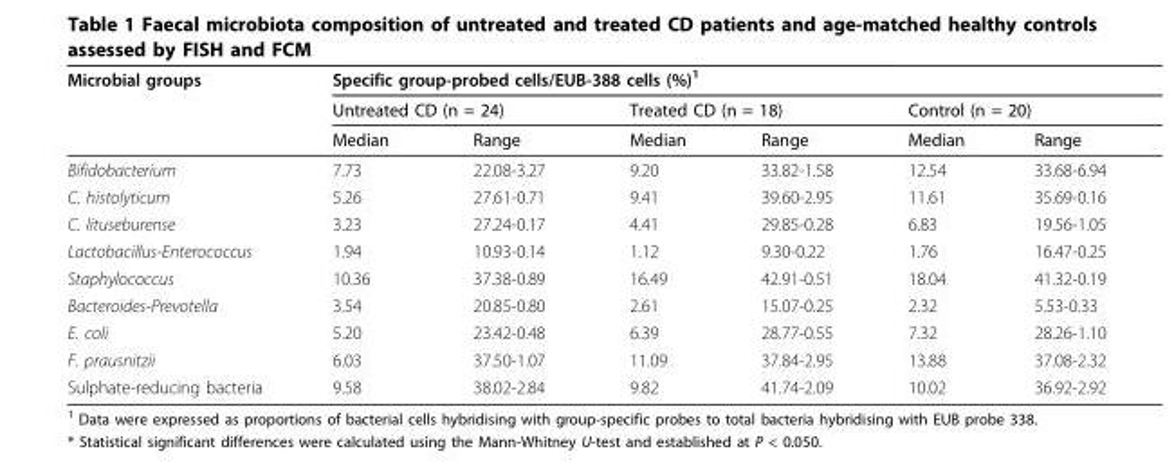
<table><thead><tr><td rowspan="3">Microbial groups</td><td colspan="6">Specific group-probed cells/EUB-388 cells (%)<sup>1</sup></td></tr><tr><td colspan="2">Untreated CD (n = 24)</td><td colspan="2">Treated CD (n = 18)</td><td colspan="2">Control (n = 20)</td></tr><tr><td>Median</td><td>Range</td><td>Median</td><td>Range</td><td>Median</td><td>Range</td></tr></thead><tbody><tr><td>Bifidobacterium</td><td>7.73</td><td>22.08-3.27</td><td>9.20</td><td>33.82-1.58</td><td>12.54</td><td>33.68-6.94</td></tr><tr><td>C. histolyticum</td><td>5.26</td><td>27.61-0.71</td><td>9.41</td><td>39.60-2.95</td><td>11.61</td><td>35.69-0.16</td></tr><tr><td>C. lituseburense</td><td>3.23</td><td>27.24-0.17</td><td>4.41</td><td>29.85-0.28</td><td>6.83</td><td>19.56-1.05</td></tr><tr><td>Lactobacillus-Enterococcus</td><td>1.94</td><td>10.93-0.14</td><td>1.12</td><td>9.30-0.22</td><td>1.76</td><td>16.47-0.25</td></tr><tr><td>Staphylococcus</td><td>10.36</td><td>37.38-0.89</td><td>16.49</td><td>42.91-0.51</td><td>18.04</td><td>41.32-0.19</td></tr><tr><td>Bacteroides-Prevotella</td><td>3.54</td><td>20.85-0.80</td><td>2.61</td><td>15.07-0.25</td><td>2.32</td><td>5.53-0.33</td></tr><tr><td>E. coli</td><td>5.20</td><td>23.42-0.48</td><td>6.39</td><td>28.77-0.55</td><td>7.32</td><td>28.26-1.10</td></tr><tr><td>F. prausnitzii</td><td>6.03</td><td>37.50-1.07</td><td>11.09</td><td>37.84-2.95</td><td>13.88</td><td>37.08-2.32</td></tr><tr><td>Sulphate-reducing bacteria</td><td>9.58</td><td>38.02-2.84</td><td>9.82</td><td>41.74-2.09</td><td>10.02</td><td>36.92-2.92</td></tr></tbody></table>